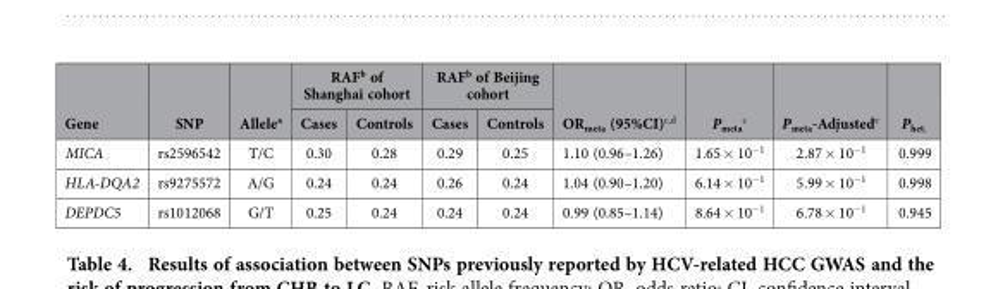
<table><thead><tr><td rowspan="2">Gene</td><td rowspan="2">SNP</td><td rowspan="2">Allele<sup>a</sup></td><td colspan="2">RAF<sup>b</sup> of Shanghai cohort</td><td colspan="2">RAF<sup>b</sup> of Beijing cohort</td><td rowspan="2">OR<sub>meta</sub> (95%CI)<sup>c</sup>,<sup>d</sup></td><td rowspan="2">P<sub>meta</sub> <sup>c</sup></td><td rowspan="2">P<sub>meta</sub>-Adjusted<sup>e</sup></td><td rowspan="2">P<sub>het.</sub></td></tr><tr><td>Cases</td><td>Controls</td><td>Cases</td><td>Controls</td></tr></thead><tbody><tr><td>MICA</td><td>rs2596542</td><td>T/C</td><td>0.30</td><td>0.28</td><td>0.29</td><td>0.25</td><td>1.10 (0.96–1.26)</td><td>1.65 × 10<sup>−1</sup></td><td>2.87 × 10<sup>−1</sup></td><td>0.999</td></tr><tr><td>HLA-DQA2</td><td>rs9275572</td><td>A/G</td><td>0.24</td><td>0.24</td><td>0.26</td><td>0.24</td><td>1.04 (0.90–1.20)</td><td>6.14 × 10<sup>−1</sup></td><td>5.99 × 10<sup>−1</sup></td><td>0.998</td></tr><tr><td>DEPDC5</td><td>rs1012068</td><td>G/T</td><td>0.25</td><td>0.24</td><td>0.24</td><td>0.24</td><td>0.99 (0.85–1.14)</td><td>8.64 × 10<sup>−1</sup></td><td>6.78 × 10<sup>−1</sup></td><td>0.945</td></tr></tbody></table>